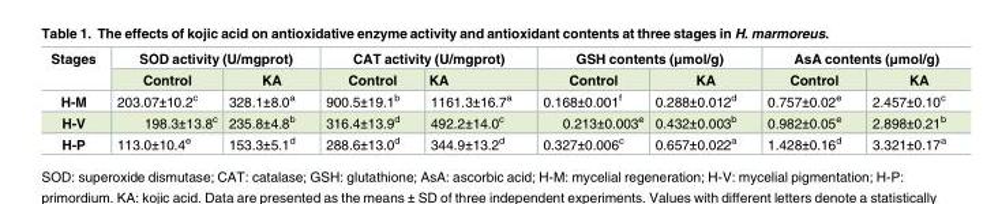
<table><thead><tr><td rowspan="2">Stages</td><td colspan="2">SOD activity (U/mgprot)</td><td colspan="2">CAT activity (U/mgprot)</td><td colspan="2">GSH contents (μmol/g)</td><td colspan="2">AsA contents (μmol/g)</td></tr><tr><td>Control</td><td>KA</td><td>Control</td><td>KA</td><td>Control</td><td>KA</td><td>Control</td><td>KA</td></tr></thead><tbody><tr><td>H-M</td><td>203.07±10.2<sup>c</sup></td><td>328.1±8.0<sup>a</sup></td><td>900.5±19.1<sup>b</sup></td><td>1161.3±16.7<sup>a</sup></td><td>0.168±0.001<sup>f</sup></td><td>0.288±0.012<sup>d</sup></td><td>0.757±0.02<sup>e</sup></td><td>2.457±0.10<sup>c</sup></td></tr><tr><td>H-V</td><td>198.3±13.8<sup>c</sup></td><td>235.8±4.8<sup>b</sup></td><td>316.4±13.9<sup>d</sup></td><td>492.2±14.0<sup>c</sup></td><td>0.213±0.003<sup>e</sup></td><td>0.432±0.003<sup>b</sup></td><td>0.982±0.05<sup>e</sup></td><td>2.898±0.21<sup>b</sup></td></tr><tr><td>H-P</td><td>113.0±10.4<sup>e</sup></td><td>153.3±5.1<sup>d</sup></td><td>288.6±13.0<sup>d</sup></td><td>344.9±13.2<sup>d</sup></td><td>0.327±0.006<sup>c</sup></td><td>0.657±0.022<sup>a</sup></td><td>1.428±0.16<sup>d</sup></td><td>3.321±0.17<sup>a</sup></td></tr></tbody></table>